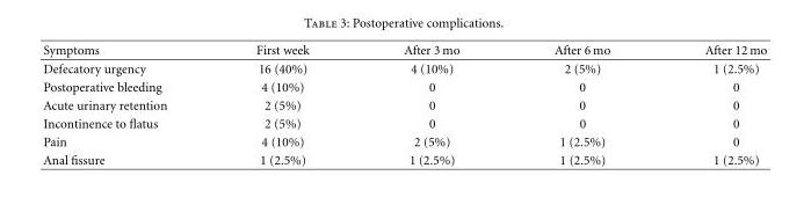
<table><thead><tr><td>Symptoms</td><td>First week</td><td>After 3 mo</td><td>After 6 mo</td><td>After 12 mo</td></tr></thead><tbody><tr><td>Defecatory urgency</td><td>16 (40%)</td><td>4 (10%)</td><td>2 (5%)</td><td>1 (2.5%)</td></tr><tr><td>Postoperative bleeding</td><td>4 (10%)</td><td>0</td><td>0</td><td>0</td></tr><tr><td>Acute urinary retention</td><td>2 (5%)</td><td>0</td><td>0</td><td>0</td></tr><tr><td>Incontinence to flatus</td><td>2 (5%)</td><td>0</td><td>0</td><td>0</td></tr><tr><td>Pain</td><td>4 (10%)</td><td>2 (5%)</td><td>1 (2.5%)</td><td>0</td></tr><tr><td>Anal fissure</td><td>1 (2.5%)</td><td>1 (2.5%)</td><td>1 (2.5%)</td><td>1 (2.5%)</td></tr></tbody></table>